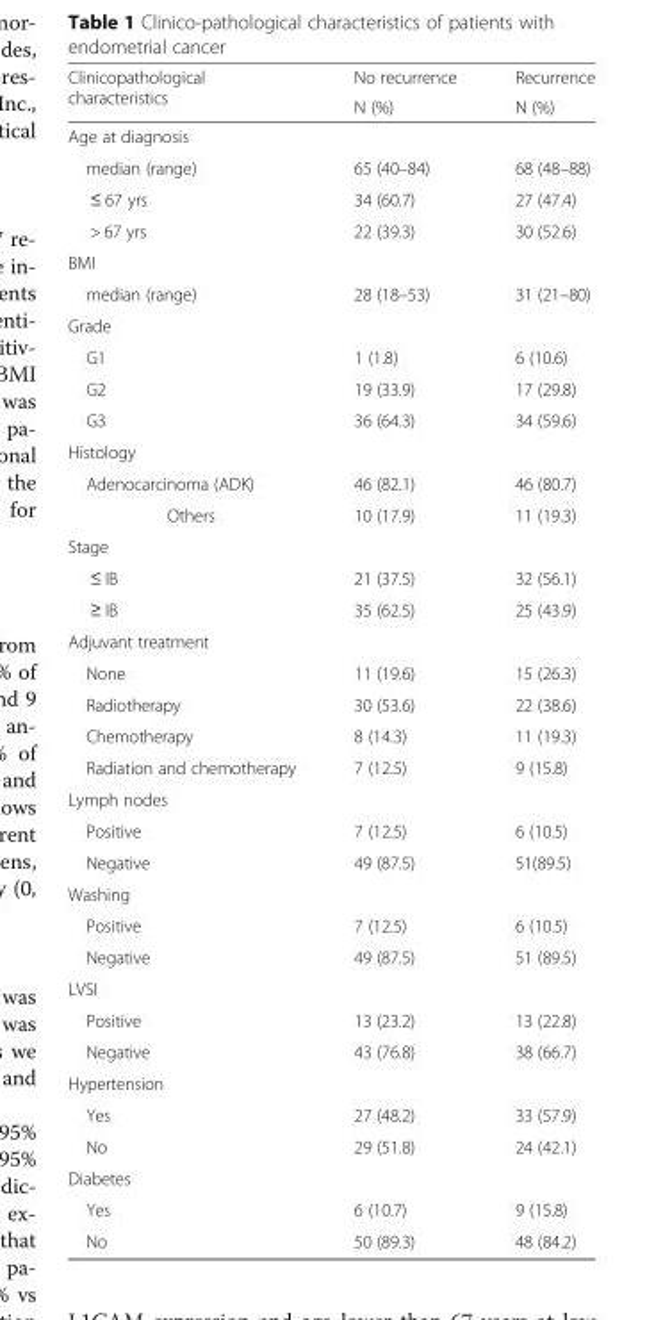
<table><thead><tr><td rowspan="2">Clinicopathological characteristics</td><td rowspan="2">No recurrence N (%)</td><td rowspan="2">Recurrence N (%)</td></tr><tr></tr></thead><tbody><tr><td colspan="3">Age at diagnosis</td></tr><tr><td>median (range)</td><td>65 (40–84)</td><td>68 (48–88)</td></tr><tr><td>≤ 67 yrs</td><td>34 (60.7)</td><td>27 (47.4)</td></tr><tr><td>&gt; 67 yrs</td><td>22 (39.3)</td><td>30 (52.6)</td></tr><tr><td colspan="3">BMI</td></tr><tr><td>median (range)</td><td>28 (18–53)</td><td>31 (21–80)</td></tr><tr><td colspan="3">Grade</td></tr><tr><td>G1</td><td>1 (1.8)</td><td>6 (10.6)</td></tr><tr><td>G2</td><td>19 (33.9)</td><td>17 (29.8)</td></tr><tr><td>G3</td><td>36 (64.3)</td><td>34 (59.6)</td></tr><tr><td colspan="3">Histology</td></tr><tr><td>Adenocarcinoma (ADK)</td><td>46 (82.1)</td><td>46 (80.7)</td></tr><tr><td>Others</td><td>10 (17.9)</td><td>11 (19.3)</td></tr><tr><td colspan="3">Stage</td></tr><tr><td>≤ IB</td><td>21 (37.5)</td><td>32 (56.1)</td></tr><tr><td>≥ IB</td><td>35 (62.5)</td><td>25 (43.9)</td></tr><tr><td colspan="3">Adjuvant treatment</td></tr><tr><td>None</td><td>11 (19.6)</td><td>15 (26.3)</td></tr><tr><td>Radiotherapy</td><td>30 (53.6)</td><td>22 (38.6)</td></tr><tr><td>Chemotherapy</td><td>8 (14.3)</td><td>11 (19.3)</td></tr><tr><td>Radiation and chemotherapy</td><td>7 (12.5)</td><td>9 (15.8)</td></tr><tr><td colspan="3">Lymph nodes</td></tr><tr><td>Positive</td><td>7 (12.5)</td><td>6 (10.5)</td></tr><tr><td>Negative</td><td>49 (87.5)</td><td>51(89.5)</td></tr><tr><td colspan="3">Washing</td></tr><tr><td>Positive</td><td>7 (12.5)</td><td>6 (10.5)</td></tr><tr><td>Negative</td><td>49 (87.5)</td><td>51 (89.5)</td></tr><tr><td colspan="3">LVSI</td></tr><tr><td>Positive</td><td>13 (23.2)</td><td>13 (22.8)</td></tr><tr><td>Negative</td><td>43 (76.8)</td><td>38 (66.7)</td></tr><tr><td colspan="3">Hypertension</td></tr><tr><td>Yes</td><td>27 (48.2)</td><td>33 (57.9)</td></tr><tr><td>No</td><td>29 (51.8)</td><td>24 (42.1)</td></tr><tr><td colspan="3">Diabetes</td></tr><tr><td>Yes</td><td>6 (10.7)</td><td>9 (15.8)</td></tr><tr><td>No</td><td>50 (89.3)</td><td>48 (84.2)</td></tr></tbody></table>